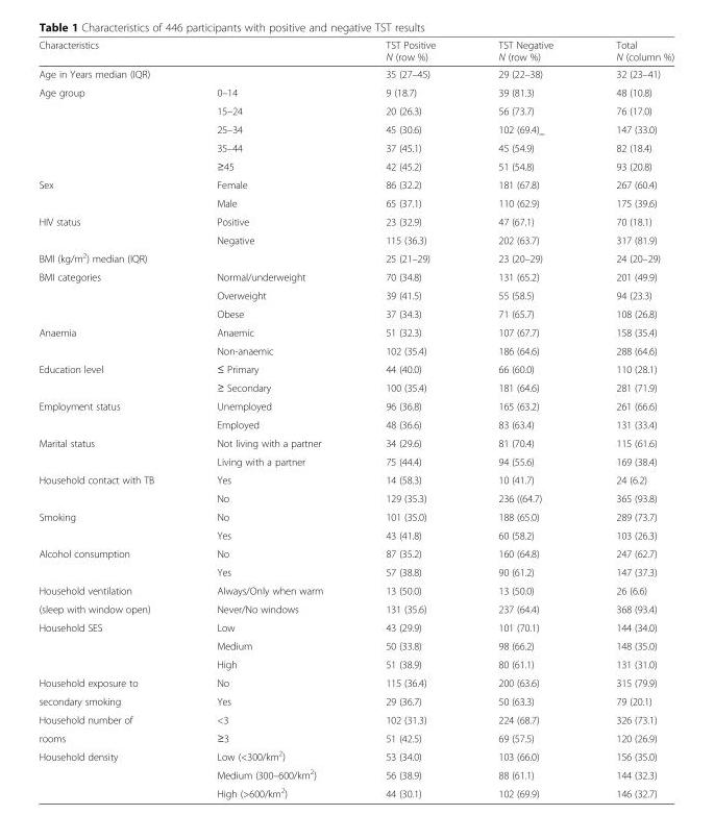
<table><thead><tr><td>Characteristics</td><td></td><td>TST Positive N (row %)</td><td>TST Negative N (row %)</td><td>Total N (column %)</td></tr></thead><tbody><tr><td>Age in Years median (IQR)</td><td></td><td>35 (27–45)</td><td>29 (22–38)</td><td>32 (23–41)</td></tr><tr><td rowspan="5">Age group</td><td>0–14</td><td>9 (18.7)</td><td>39 (81.3)</td><td>48 (10.8)</td></tr><tr><td>15–24</td><td>20 (26.3)</td><td>56 (73.7)</td><td>76 (17.0)</td></tr><tr><td>25–34</td><td>45 (30.6)</td><td>102 (69.4)_</td><td>147 (33.0)</td></tr><tr><td>35–44</td><td>37 (45.1)</td><td>45 (54.9)</td><td>82 (18.4)</td></tr><tr><td>≥45</td><td>42 (45.2)</td><td>51 (54.8)</td><td>93 (20.8)</td></tr><tr><td rowspan="2">Sex</td><td>Female</td><td>86 (32.2)</td><td>181 (67.8)</td><td>267 (60.4)</td></tr><tr><td>Male</td><td>65 (37.1)</td><td>110 (62.9)</td><td>175 (39.6)</td></tr><tr><td rowspan="2">HIV status</td><td>Positive</td><td>23 (32.9)</td><td>47 (67.1)</td><td>70 (18.1)</td></tr><tr><td>Negative</td><td>115 (36.3)</td><td>202 (63.7)</td><td>317 (81.9)</td></tr><tr><td>BMI (kg/m<sup>2</sup>) median (IQR)</td><td></td><td>25 (21–29)</td><td>23 (20–29)</td><td>24 (20–29)</td></tr><tr><td rowspan="3">BMI categories</td><td>Normal/underweight</td><td>70 (34.8)</td><td>131 (65.2)</td><td>201 (49.9)</td></tr><tr><td>Overweight</td><td>39 (41.5)</td><td>55 (58.5)</td><td>94 (23.3)</td></tr><tr><td>Obese</td><td>37 (34.3)</td><td>71 (65.7)</td><td>108 (26.8)</td></tr><tr><td rowspan="2">Anaemia</td><td>Anaemic</td><td>51 (32.3)</td><td>107 (67.7)</td><td>158 (35.4)</td></tr><tr><td>Non-anaemic</td><td>102 (35.4)</td><td>186 (64.6)</td><td>288 (64.6)</td></tr><tr><td rowspan="2">Education level</td><td>≤ Primary</td><td>44 (40.0)</td><td>66 (60.0)</td><td>110 (28.1)</td></tr><tr><td>≥ Secondary</td><td>100 (35.4)</td><td>181 (64.6)</td><td>281 (71.9)</td></tr><tr><td rowspan="2">Employment status</td><td>Unemployed</td><td>96 (36.8)</td><td>165 (63.2)</td><td>261 (66.6)</td></tr><tr><td>Employed</td><td>48 (36.6)</td><td>83 (63.4)</td><td>131 (33.4)</td></tr><tr><td rowspan="2">Marital status</td><td>Not living with a partner</td><td>34 (29.6)</td><td>81 (70.4)</td><td>115 (61.6)</td></tr><tr><td>Living with a partner</td><td>75 (44.4)</td><td>94 (55.6)</td><td>169 (38.4)</td></tr><tr><td rowspan="2">Household contact with TB</td><td>Yes</td><td>14 (58.3)</td><td>10 (41.7)</td><td>24 (6.2)</td></tr><tr><td>No</td><td>129 (35.3)</td><td>236 ((64.7)</td><td>365 (93.8)</td></tr><tr><td rowspan="2">Smoking</td><td>No</td><td>101 (35.0)</td><td>188 (65.0)</td><td>289 (73.7)</td></tr><tr><td>Yes</td><td>43 (41.8)</td><td>60 (58.2)</td><td>103 (26.3)</td></tr><tr><td rowspan="2">Alcohol consumption</td><td>No</td><td>87 (35.2)</td><td>160 (64.8)</td><td>247 (62.7)</td></tr><tr><td>Yes</td><td>57 (38.8)</td><td>90 (61.2)</td><td>147 (37.3)</td></tr><tr><td>Household ventilation</td><td>Always/Only when warm</td><td>13 (50.0)</td><td>13 (50.0)</td><td>26 (6.6)</td></tr><tr><td>(sleep with window open)</td><td>Never/No windows</td><td>131 (35.6)</td><td>237 (64.4)</td><td>368 (93.4)</td></tr><tr><td rowspan="3">Household SES</td><td>Low</td><td>43 (29.9)</td><td>101 (70.1)</td><td>144 (34.0)</td></tr><tr><td>Medium</td><td>50 (33.8)</td><td>98 (66.2)</td><td>148 (35.0)</td></tr><tr><td>High</td><td>51 (38.9)</td><td>80 (61.1)</td><td>131 (31.0)</td></tr><tr><td>Household exposure to</td><td>No</td><td>115 (36.4)</td><td>200 (63.6)</td><td>315 (79.9)</td></tr><tr><td>secondary smoking</td><td>Yes</td><td>29 (36.7)</td><td>50 (63.3)</td><td>79 (20.1)</td></tr><tr><td>Household number of</td><td>&lt;3</td><td>102 (31.3)</td><td>224 (68.7)</td><td>326 (73.1)</td></tr><tr><td>rooms</td><td>≥3</td><td>51 (42.5)</td><td>69 (57.5)</td><td>120 (26.9)</td></tr><tr><td rowspan="3">Household density</td><td>Low (&lt;300/km<sup>2</sup>)</td><td>53 (34.0)</td><td>103 (66.0)</td><td>156 (35.0)</td></tr><tr><td>Medium (300–600/km<sup>2</sup>)</td><td>56 (38.9)</td><td>88 (61.1)</td><td>144 (32.3)</td></tr><tr><td>High (&gt;600/km<sup>2</sup>)</td><td>44 (30.1)</td><td>102 (69.9)</td><td>146 (32.7)</td></tr></tbody></table>